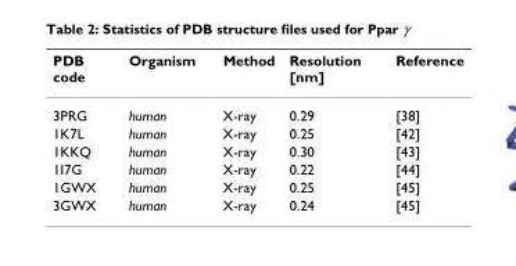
<table><thead><tr><td>PDB code</td><td>Organism</td><td>Method</td><td>Resolution [nm]</td><td>Reference</td></tr></thead><tbody><tr><td>3PRG</td><td>human</td><td>X-ray</td><td>0.29</td><td>[38]</td></tr><tr><td>1K7L</td><td>human</td><td>X-ray</td><td>0.25</td><td>[42]</td></tr><tr><td>1KKQ</td><td>human</td><td>X-ray</td><td>0.30</td><td>[43]</td></tr><tr><td>1I7G</td><td>human</td><td>X-ray</td><td>0.22</td><td>[44]</td></tr><tr><td>1GWX</td><td>human</td><td>X-ray</td><td>0.25</td><td>[45]</td></tr><tr><td>3GWX</td><td>human</td><td>X-ray</td><td>0.24</td><td>[45]</td></tr></tbody></table>